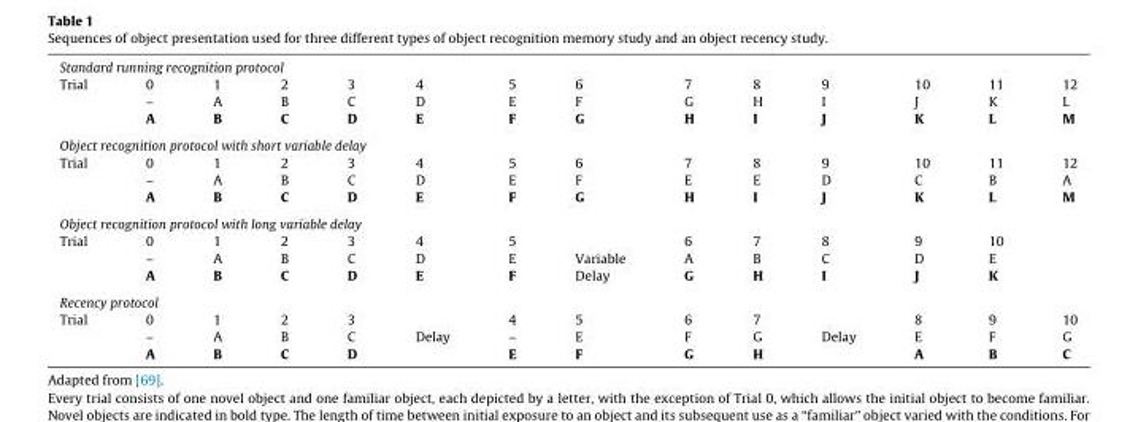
<table><tbody><tr><td colspan="14">Standard running recognition protocol</td></tr><tr><td rowspan="3">Trial</td><td>0</td><td>1</td><td>2</td><td>3</td><td>4</td><td>5</td><td>6</td><td>7</td><td>8</td><td>9</td><td>10</td><td>11</td><td>12</td></tr><tr><td>–</td><td>A</td><td>B</td><td>C</td><td>D</td><td>E</td><td>F</td><td>G</td><td>H</td><td>I</td><td>J</td><td>K</td><td>L</td></tr><tr><td>A</td><td>B</td><td>C</td><td>D</td><td>E</td><td>F</td><td>G</td><td>H</td><td>I</td><td>J</td><td>K</td><td>L</td><td>M</td></tr><tr><td colspan="14">Object recognition protocol with short variable delay</td></tr><tr><td rowspan="3">Trial</td><td>0</td><td>1</td><td>2</td><td>3</td><td>4</td><td>5</td><td>6</td><td>7</td><td>8</td><td>9</td><td>10</td><td>11</td><td>12</td></tr><tr><td>–</td><td>A</td><td>B</td><td>C</td><td>D</td><td>E</td><td>F</td><td>E</td><td>E</td><td>D</td><td>C</td><td>B</td><td>A</td></tr><tr><td>A</td><td>B</td><td>C</td><td>D</td><td>E</td><td>F</td><td>G</td><td>H</td><td>I</td><td>J</td><td>K</td><td>L</td><td>M</td></tr><tr><td colspan="14">Object recognition protocol with long variable delay</td></tr><tr><td rowspan="3">Trial</td><td>0</td><td>1</td><td>2</td><td>3</td><td>4</td><td>5</td><td></td><td>6</td><td>7</td><td>8</td><td>9</td><td>10</td><td></td></tr><tr><td>–</td><td>A</td><td>B</td><td>C</td><td>D</td><td>E</td><td>Variable</td><td>A</td><td>B</td><td>C</td><td>D</td><td>E</td><td></td></tr><tr><td>A</td><td>B</td><td>C</td><td>D</td><td>E</td><td>F</td><td>Delay</td><td>G</td><td>H</td><td>I</td><td>J</td><td>K</td><td></td></tr><tr><td colspan="14">Recency protocol</td></tr><tr><td rowspan="3">Trial</td><td>0</td><td>1</td><td>2</td><td>3</td><td></td><td>4</td><td>5</td><td>6</td><td>7</td><td></td><td>8</td><td>9</td><td>10</td></tr><tr><td>–</td><td>A</td><td>B</td><td>C</td><td>Delay</td><td>–</td><td>E</td><td>F</td><td>G</td><td>Delay</td><td>E</td><td>F</td><td>G</td></tr><tr><td>A</td><td>B</td><td>C</td><td>D</td><td></td><td>E</td><td>F</td><td>G</td><td>H</td><td></td><td>A</td><td>B</td><td>C</td></tr></tbody></table>